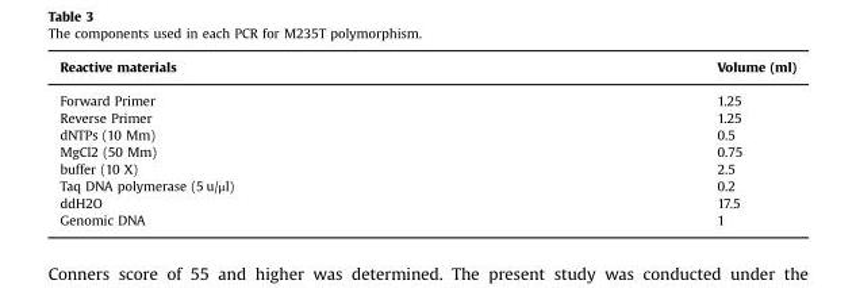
<table><thead><tr><td>Reactive materials</td><td>Volume (ml)</td></tr></thead><tbody><tr><td>Forward Primer</td><td>1.25</td></tr><tr><td>Reverse Primer</td><td>1.25</td></tr><tr><td>dNTPs (10 Mm)</td><td>0.5</td></tr><tr><td>MgCl2 (50 Mm)</td><td>0.75</td></tr><tr><td>buffer (10 X)</td><td>2.5</td></tr><tr><td>Taq DNA polymerase (5 u/μl)</td><td>0.2</td></tr><tr><td>ddH2O</td><td>17.5</td></tr><tr><td>Genomic DNA</td><td>1</td></tr></tbody></table>